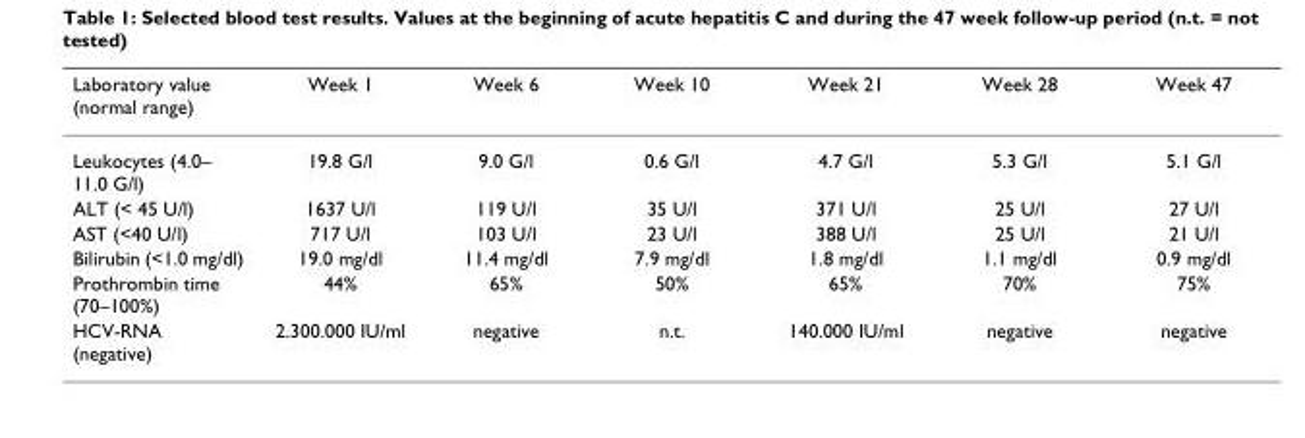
<table><thead><tr><td>Laboratory value (normal range)</td><td>Week 1</td><td>Week 6</td><td>Week 10</td><td>Week 21</td><td>Week 28</td><td>Week 47</td></tr></thead><tbody><tr><td>Leukocytes (4.0– 11.0 G/l)</td><td>19.8 G/l</td><td>9.0 G/l</td><td>0.6 G/l</td><td>4.7 G/l</td><td>5.3 G/l</td><td>5.1 G/l</td></tr><tr><td>ALT (&lt; 45 U/l)</td><td>1637 U/l</td><td>119 U/l</td><td>35 U/l</td><td>371 U/l</td><td>25 U/l</td><td>27 U/l</td></tr><tr><td>AST (&lt;40 U/l)</td><td>717 U/l</td><td>103 U/l</td><td>23 U/l</td><td>388 U/l</td><td>25 U/l</td><td>21 U/l</td></tr><tr><td>Bilirubin (&lt;1.0 mg/dl)</td><td>19.0 mg/dl</td><td>11.4 mg/dl</td><td>7.9 mg/dl</td><td>1.8 mg/dl</td><td>1.1 mg/dl</td><td>0.9 mg/dl</td></tr><tr><td>Prothrombin time (70–100%)</td><td>44%</td><td>65%</td><td>50%</td><td>65%</td><td>70%</td><td>75%</td></tr><tr><td>HCV-RNA (negative)</td><td>2.300.000 IU/ml</td><td>negative</td><td>n.t.</td><td>140.000 IU/ml</td><td>negative</td><td>negative</td></tr></tbody></table>